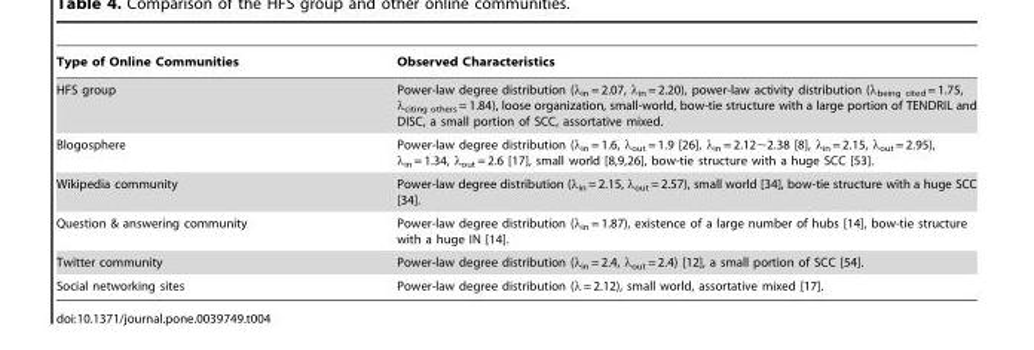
<table><thead><tr><td>Type of Online Communities</td><td>Observed Characteristics</td></tr></thead><tbody><tr><td>HFS group</td><td>Power-law degree distribution (λ<sub>in</sub> = 2.07, λ<sub>in</sub> = 2.20), power-law activity distribution (λ<sub>being cited</sub> = 1.75, λ<sub>citing others</sub> = 1.84), loose organization, small-world, bow-tie structure with a large portion of TENDRIL and DISC, a small portion of SCC, assortative mixed.</td></tr><tr><td>Blogosphere</td><td>Power-law degree distribution (lin = 1.6, lout = 1.9 [26], lin = 2.12,2.38 [8], lin = 2.15, lout = 2.95), lin = 1.34, lout = 2.6 [17], small world [8,9,26], bow-tie structure with a huge SCC [53].</td></tr><tr><td>Wikipedia community</td><td>Power-law degree distribution (λ<sub>in</sub> = 2.15, λ<sub>out</sub> = 2.57), small world [34], bow-tie structure with a huge SCC [34].</td></tr><tr><td>Question &amp; answering community</td><td>Power-law degree distribution (λ<sub>in</sub> = 1.87), existence of a large number of hubs [14], bow-tie structure with a huge IN [14].</td></tr><tr><td>Twitter community</td><td>Power-law degree distribution (λ<sub>in</sub> = 2.4, λ<sub>out</sub> = 2.4) [12], a small portion of SCC [54].</td></tr><tr><td>Social networking sites</td><td>Power-law degree distribution (λ = 2.12), small world, assortative mixed [17].</td></tr></tbody></table>